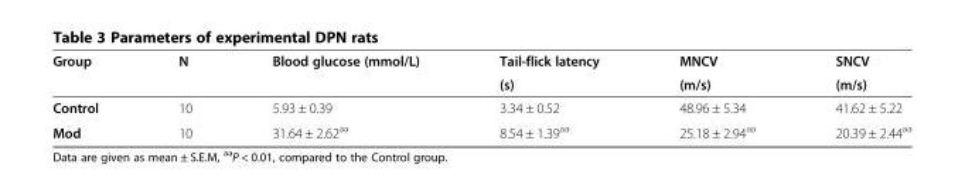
<table><thead><tr><td rowspan="2">Group</td><td rowspan="2">N</td><td rowspan="2">Blood glucose (mmol/L)</td><td rowspan="2">Tail-flick latency (s)</td><td rowspan="2">MNCV (m/s)</td><td rowspan="2">SNCV (m/s)</td></tr><tr></tr></thead><tbody><tr><td>Control</td><td>10</td><td>5.93 ± 0.39</td><td>3.34 ± 0.52</td><td>48.96 ± 5.34</td><td>41.62 ± 5.22</td></tr><tr><td>Mod</td><td>10</td><td>31.64 ± 2.62<sup>aa</sup></td><td>8.54 ± 1.39<sup>aa</sup></td><td>25.18 ± 2.94<sup>aa</sup></td><td>20.39 ± 2.44<sup>aa</sup></td></tr></tbody></table>